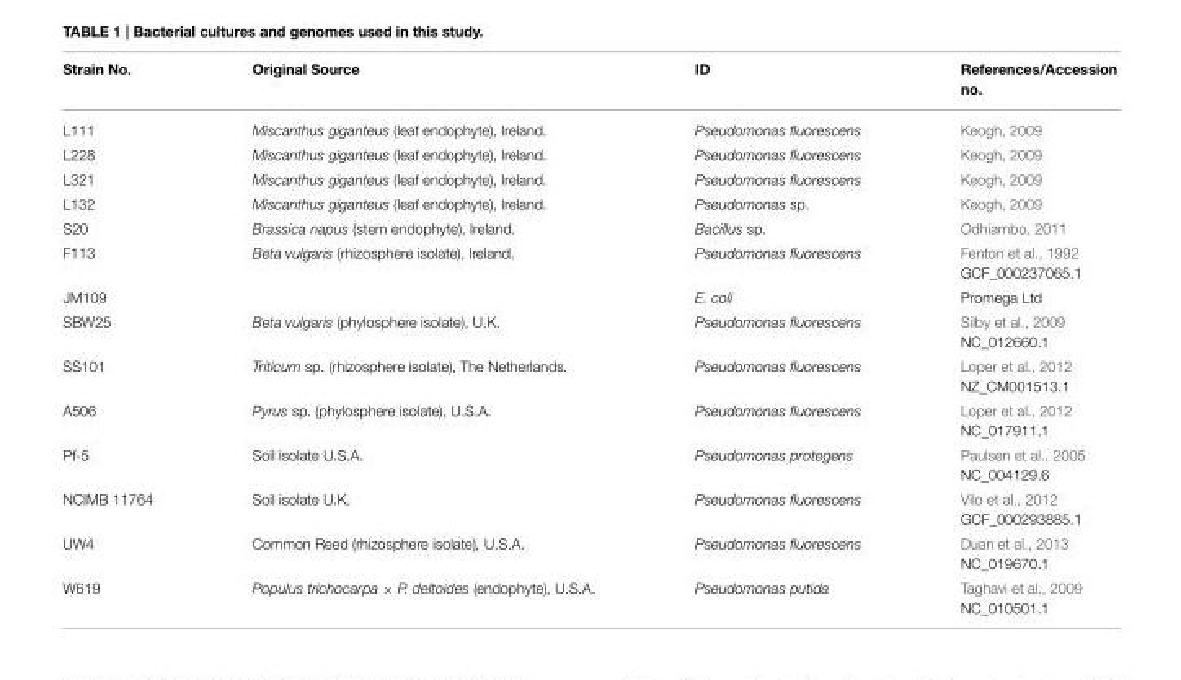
<table><thead><tr><td>Strain No.</td><td>Original Source</td><td>ID</td><td>References/Accession no.</td></tr></thead><tbody><tr><td>L111</td><td>Miscanthus giganteus (leaf endophyte), Ireland.</td><td>Pseudomonas fluorescens</td><td>Keogh, 2009</td></tr><tr><td>L228</td><td>Miscanthus giganteus (leaf endophyte), Ireland.</td><td>Pseudomonas fluorescens</td><td>Keogh, 2009</td></tr><tr><td>L321</td><td>Miscanthus giganteus (leaf endophyte), Ireland.</td><td>Pseudomonas fluorescens</td><td>Keogh, 2009</td></tr><tr><td>L132</td><td>Miscanthus giganteus (leaf endophyte), Ireland.</td><td>Pseudomonas sp.</td><td>Keogh, 2009</td></tr><tr><td>S20</td><td>Brassica napus (stem endophyte), Ireland.</td><td>Bacillus sp.</td><td>Odhiambo, 2011</td></tr><tr><td>F113</td><td>Beta vulgaris (rhizosphere isolate), Ireland.</td><td>Pseudomonas fluorescens</td><td>Fenton et al., 1992 GCF_000237065.1</td></tr><tr><td>JM109</td><td></td><td>E. coli</td><td>Promega Ltd</td></tr><tr><td>SBW25</td><td>Beta vulgaris (phylosphere isolate), U.K.</td><td>Pseudomonas fluorescens</td><td>Silby et al., 2009 NC_012660.1</td></tr><tr><td>SS101</td><td>Triticum sp. (rhizosphere isolate), The Netherlands.</td><td>Pseudomonas fluorescens</td><td>Loper et al., 2012 NZ_CM001513.1</td></tr><tr><td>A506</td><td>Pyrus sp. (phylosphere isolate), U.S.A.</td><td>Pseudomonas fluorescens</td><td>Loper et al., 2012 NC_017911.1</td></tr><tr><td>Pf-5</td><td>Soil isolate U.S.A.</td><td>Pseudomonas protegens</td><td>Paulsen et al., 2005 NC_004129.6</td></tr><tr><td>NCIMB 11764</td><td>Soil isolate U.K.</td><td>Pseudomonas fluorescens</td><td>Vilo et al., 2012 GCF_000293885.1</td></tr><tr><td>UW4</td><td>Common Reed (rhizosphere isolate), U.S.A.</td><td>Pseudomonas fluorescens</td><td>Duan et al., 2013 NC_019670.1</td></tr><tr><td>W619</td><td>Populus trichocarpa × P. deltoides (endophyte), U.S.A.</td><td>Pseudomonas putida</td><td>Taghavi et al., 2009 NC_010501.1</td></tr></tbody></table>